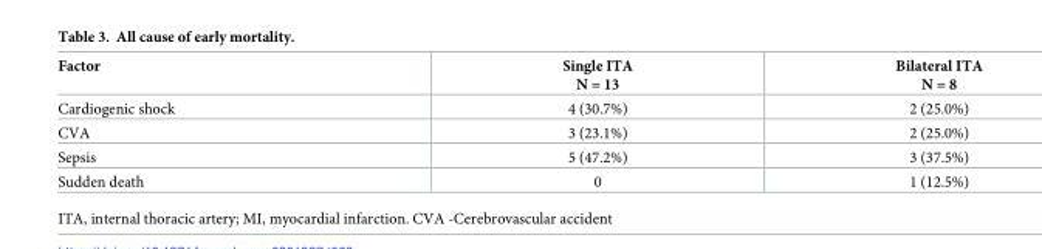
<table><thead><tr><td>Factor</td><td>Single ITA N = 13</td><td>Bilateral ITA N = 8</td></tr></thead><tbody><tr><td>Cardiogenic shock</td><td>4 (30.7%)</td><td>2 (25.0%)</td></tr><tr><td>CVA</td><td>3 (23.1%)</td><td>2 (25.0%)</td></tr><tr><td>Sepsis</td><td>5 (47.2%)</td><td>3 (37.5%)</td></tr><tr><td>Sudden death</td><td>0</td><td>1 (12.5%)</td></tr></tbody></table>